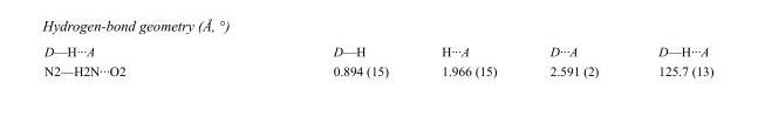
<table><tbody><tr><td>D—H···A</td><td>D—H</td><td>H···A</td><td>D···A</td><td>D—H···A</td></tr><tr><td>N2—H2N···O2</td><td>0.894 (15)</td><td>1.966 (15)</td><td>2.591 (2)</td><td>125.7 (13)</td></tr></tbody></table>